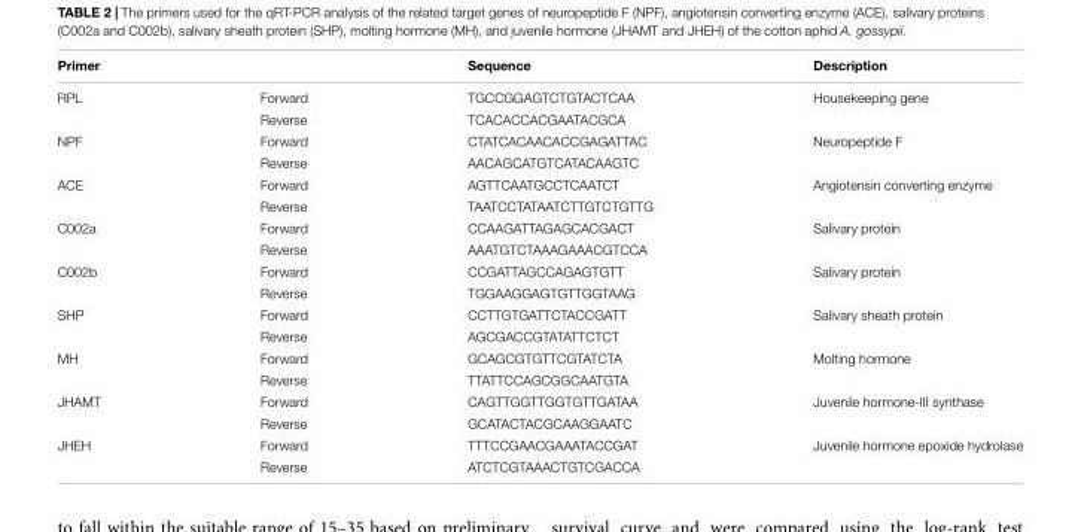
<table><thead><tr><td>Primer</td><td></td><td>Sequence</td><td>Description</td></tr></thead><tbody><tr><td rowspan="2">RPL</td><td>Forward</td><td>TGCCGGAGTCTGTACTCAA</td><td>Housekeeping gene</td></tr><tr><td>Reverse</td><td>TCACACCACGAATACGCA</td><td></td></tr><tr><td rowspan="2">NPF</td><td>Forward</td><td>CTATCACAACACCGAGATTAC</td><td>Neuropeptide F</td></tr><tr><td>Reverse</td><td>AACAGCATGTCATACAAGTC</td><td></td></tr><tr><td rowspan="2">ACE</td><td>Forward</td><td>AGTTCAATGCCTCAATCT</td><td>Angiotensin converting enzyme</td></tr><tr><td>Reverse</td><td>TAATCCTATAATCTTGTCTGTTG</td><td></td></tr><tr><td rowspan="2">C002a</td><td>Forward</td><td>CCAAGATTAGAGCACGACT</td><td>Salivary protein</td></tr><tr><td>Reverse</td><td>AAATGTCTAAAGAAACGTCCA</td><td></td></tr><tr><td rowspan="2">C002b</td><td>Forward</td><td>CCGATTAGCCAGAGTGTT</td><td>Salivary protein</td></tr><tr><td>Reverse</td><td>TGGAAGGAGTGTTGGTAAG</td><td></td></tr><tr><td rowspan="2">SHP</td><td>Forward</td><td>CCTTGTGATTCTACCGATT</td><td>Salivary sheath protein</td></tr><tr><td>Reverse</td><td>AGCGACCGTATATTCTCT</td><td></td></tr><tr><td rowspan="2">MH</td><td>Forward</td><td>GCAGCGTGTTCGTATCTA</td><td>Molting hormone</td></tr><tr><td>Reverse</td><td>TTATTCCAGCGGCAATGTA</td><td></td></tr><tr><td rowspan="2">JHAMT</td><td>Forward</td><td>CAGTTGGTTGGTGTTGATAA</td><td>Juvenile hormone-III synthase</td></tr><tr><td>Reverse</td><td>GCATACTACGCAAGGAATC</td><td></td></tr><tr><td rowspan="2">JHEH</td><td>Forward</td><td>TTTCCGAACGAAATACCGAT</td><td>Juvenile hormone epoxide hydrolase</td></tr><tr><td>Reverse</td><td>ATCTCGTAAACTGTCGACCA</td><td></td></tr></tbody></table>